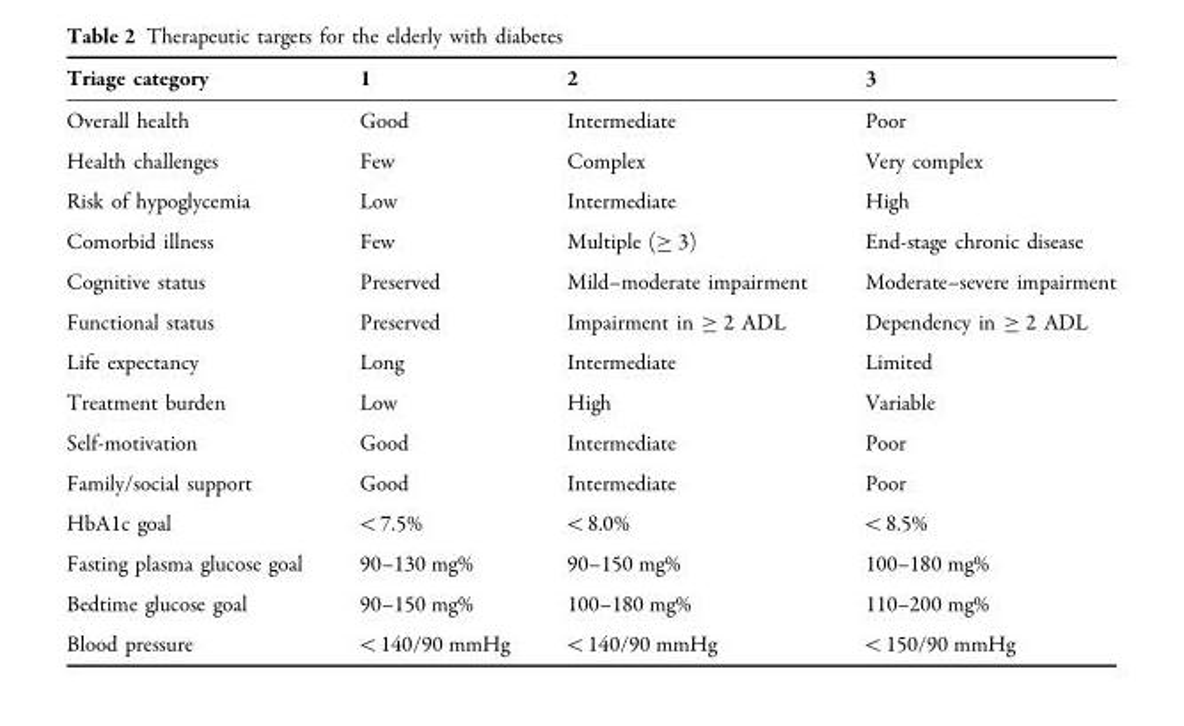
<table><thead><tr><td>Triage category</td><td>1</td><td>2</td><td>3</td></tr></thead><tbody><tr><td>Overall health</td><td>Good</td><td>Intermediate</td><td>Poor</td></tr><tr><td>Health challenges</td><td>Few</td><td>Complex</td><td>Very complex</td></tr><tr><td>Risk of hypoglycemia</td><td>Low</td><td>Intermediate</td><td>High</td></tr><tr><td>Comorbid illness</td><td>Few</td><td>Multiple (≥ 3)</td><td>End-stage chronic disease</td></tr><tr><td>Cognitive status</td><td>Preserved</td><td>Mild–moderate impairment</td><td>Moderate–severe impairment</td></tr><tr><td>Functional status</td><td>Preserved</td><td>Impairment in ≥ 2 ADL</td><td>Dependency in ≥ 2 ADL</td></tr><tr><td>Life expectancy</td><td>Long</td><td>Intermediate</td><td>Limited</td></tr><tr><td>Treatment burden</td><td>Low</td><td>High</td><td>Variable</td></tr><tr><td>Self-motivation</td><td>Good</td><td>Intermediate</td><td>Poor</td></tr><tr><td>Family/social support</td><td>Good</td><td>Intermediate</td><td>Poor</td></tr><tr><td>HbA1c goal</td><td>&lt;7.5%</td><td>&lt;8.0%</td><td>&lt;8.5%</td></tr><tr><td>Fasting plasma glucose goal</td><td>90–130 mg%</td><td>90–150 mg%</td><td>100–180 mg%</td></tr><tr><td>Bedtime glucose goal</td><td>90–150 mg%</td><td>100–180 mg%</td><td>110–200 mg%</td></tr><tr><td>Blood pressure</td><td>&lt;140/90 mmHg</td><td>&lt;140/90 mmHg</td><td>&lt;150/90 mmHg</td></tr></tbody></table>